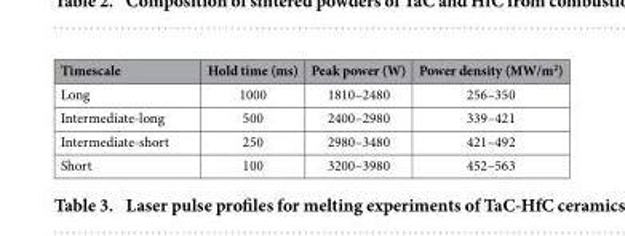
<table><thead><tr><td>Timescale</td><td>Hold time (ms)</td><td>Peak power (W)</td><td>Power density (MW/m<sup>2</sup>)</td></tr></thead><tbody><tr><td>Long</td><td>1000</td><td>1810–2480</td><td>256–350</td></tr><tr><td>Intermediate-long</td><td>500</td><td>2400–2980</td><td>339–421</td></tr><tr><td>Intermediate-short</td><td>250</td><td>2980–3480</td><td>421–492</td></tr><tr><td>Short</td><td>100</td><td>3200–3980</td><td>452–563</td></tr></tbody></table>